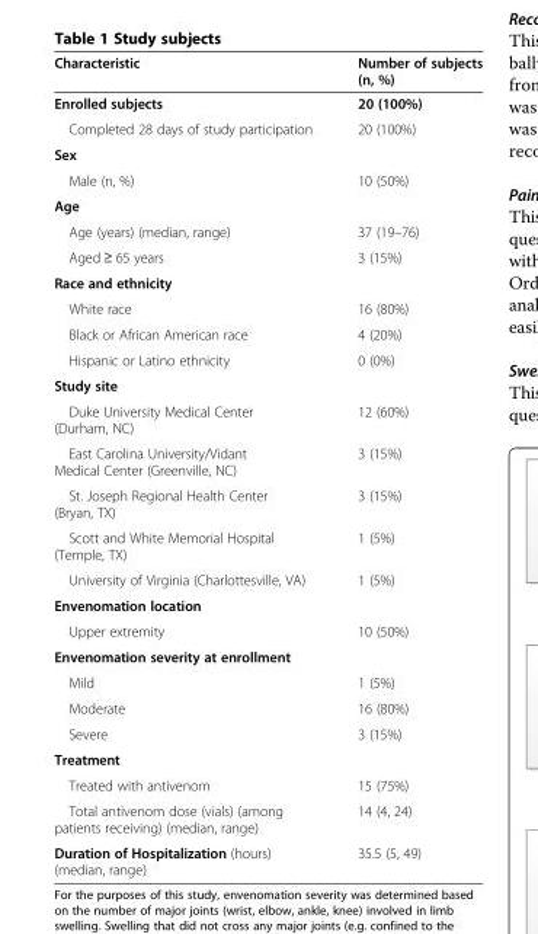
<table><thead><tr><td>Characteristic</td><td>Number of subjects (n, %)</td></tr></thead><tbody><tr><td>Enrolled subjects</td><td>20 (100%)</td></tr><tr><td>Completed 28 days of study participation</td><td>20 (100%)</td></tr><tr><td colspan="2">Sex</td></tr><tr><td>Male (n, %)</td><td>10 (50%)</td></tr><tr><td colspan="2">Age</td></tr><tr><td>Age (years) (median, range)</td><td>37 (19–76)</td></tr><tr><td>Aged ≥ 65 years</td><td>3 (15%)</td></tr><tr><td colspan="2">Race and ethnicity</td></tr><tr><td>White race</td><td>16 (80%)</td></tr><tr><td>Black or African American race</td><td>4 (20%)</td></tr><tr><td>Hispanic or Latino ethnicity</td><td>0 (0%)</td></tr><tr><td colspan="2">Study site</td></tr><tr><td>Duke University Medical Center (Durham, NC)</td><td>12 (60%)</td></tr><tr><td>East Carolina University/Vidant Medical Center (Greenville, NC)</td><td>3 (15%)</td></tr><tr><td>St. Joseph Regional Health Center (Bryan, TX)</td><td>3 (15%)</td></tr><tr><td>Scott and White Memorial Hospital (Temple, TX)</td><td>1 (5%)</td></tr><tr><td>University of Virginia (Charlottesville, VA)</td><td>1 (5%)</td></tr><tr><td colspan="2">Envenomation location</td></tr><tr><td>Upper extremity</td><td>10 (50%)</td></tr><tr><td colspan="2">Envenomation severity at enrollment</td></tr><tr><td>Mild</td><td>1 (5%)</td></tr><tr><td>Moderate</td><td>16 (80%)</td></tr><tr><td>Severe</td><td>3 (15%)</td></tr><tr><td colspan="2">Treatment</td></tr><tr><td>Treated with antivenom</td><td>15 (75%)</td></tr><tr><td>Total antivenom dose (vials) (among patients receiving) (median, range)</td><td>14 (4, 24)</td></tr><tr><td>Duration of Hospitalization (hours) (median, range)</td><td>35.5 (5, 49)</td></tr></tbody></table>